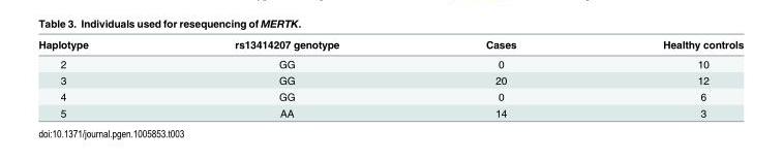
<table><thead><tr><td>Haplotype</td><td>rs13414207 genotype</td><td>Cases</td><td>Healthy controls</td></tr></thead><tbody><tr><td>2</td><td>GG</td><td>0</td><td>10</td></tr><tr><td>3</td><td>GG</td><td>20</td><td>12</td></tr><tr><td>4</td><td>GG</td><td>0</td><td>6</td></tr><tr><td>5</td><td>AA</td><td>14</td><td>3</td></tr></tbody></table>